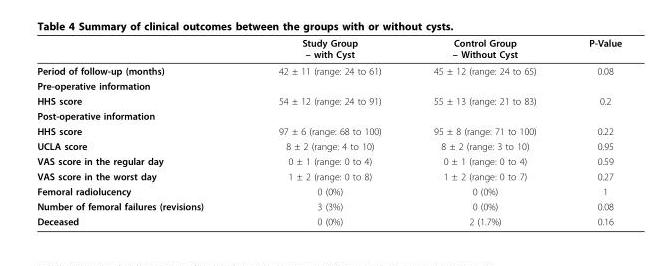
<table><thead><tr><td></td><td>Study Group – with Cyst</td><td>Control Group – Without Cyst</td><td>P-Value</td></tr></thead><tbody><tr><td>Period of follow-up (months)</td><td>42 ± 11 (range: 24 to 61)</td><td>45 ± 12 (range: 24 to 65)</td><td>0.08</td></tr><tr><td colspan="4">Pre-operative information</td></tr><tr><td>HHS score</td><td>54 ± 12 (range: 24 to 91)</td><td>55 ± 13 (range: 21 to 83)</td><td>0.2</td></tr><tr><td colspan="4">Post-operative information</td></tr><tr><td>HHS score</td><td>97 ± 6 (range: 68 to 100)</td><td>95 ± 8 (range: 71 to 100)</td><td>0.22</td></tr><tr><td>UCLA score</td><td>8 ± 2 (range: 4 to 10)</td><td>8 ± 2 (range: 3 to 10)</td><td>0.95</td></tr><tr><td>VAS score in the regular day</td><td>0 ± 1 (range: 0 to 4)</td><td>0 ± 1 (range: 0 to 4)</td><td>0.59</td></tr><tr><td>VAS score in the worst day</td><td>1 ± 2 (range: 0 to 8)</td><td>1 ± 2 (range: 0 to 7)</td><td>0.27</td></tr><tr><td>Femoral radiolucency</td><td>0 (0%)</td><td>0 (0%)</td><td>1</td></tr><tr><td>Number of femoral failures (revisions)</td><td>3 (3%)</td><td>0 (0%)</td><td>0.08</td></tr><tr><td>Deceased</td><td>0 (0%)</td><td>2 (1.7%)</td><td>0.16</td></tr></tbody></table>